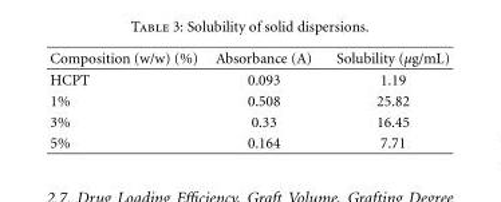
<table><thead><tr><td>Composition (w/w) (%)</td><td>Absorbance (A)</td><td>Solubility (μg/mL)</td></tr></thead><tbody><tr><td>HCPT</td><td>0.093</td><td>1.19</td></tr><tr><td>1%</td><td>0.508</td><td>25.82</td></tr><tr><td>3%</td><td>0.33</td><td>16.45</td></tr><tr><td>5%</td><td>0.164</td><td>7.71</td></tr></tbody></table>